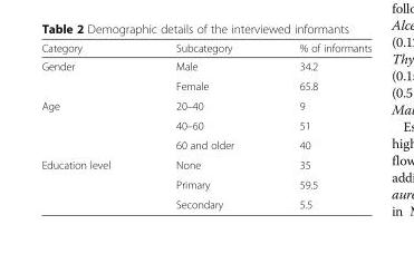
<table><thead><tr><td>Category</td><td>Subcategory</td><td>% of informants</td></tr></thead><tbody><tr><td rowspan="2">Gender</td><td>Male</td><td>34.2</td></tr><tr><td>Female</td><td>65.8</td></tr><tr><td rowspan="3">Age</td><td>20–40</td><td>9</td></tr><tr><td>40–60</td><td>51</td></tr><tr><td>60 and older</td><td>40</td></tr><tr><td rowspan="3">Education level</td><td>None</td><td>35</td></tr><tr><td>Primary</td><td>59.5</td></tr><tr><td>Secondary</td><td>5.5</td></tr></tbody></table>